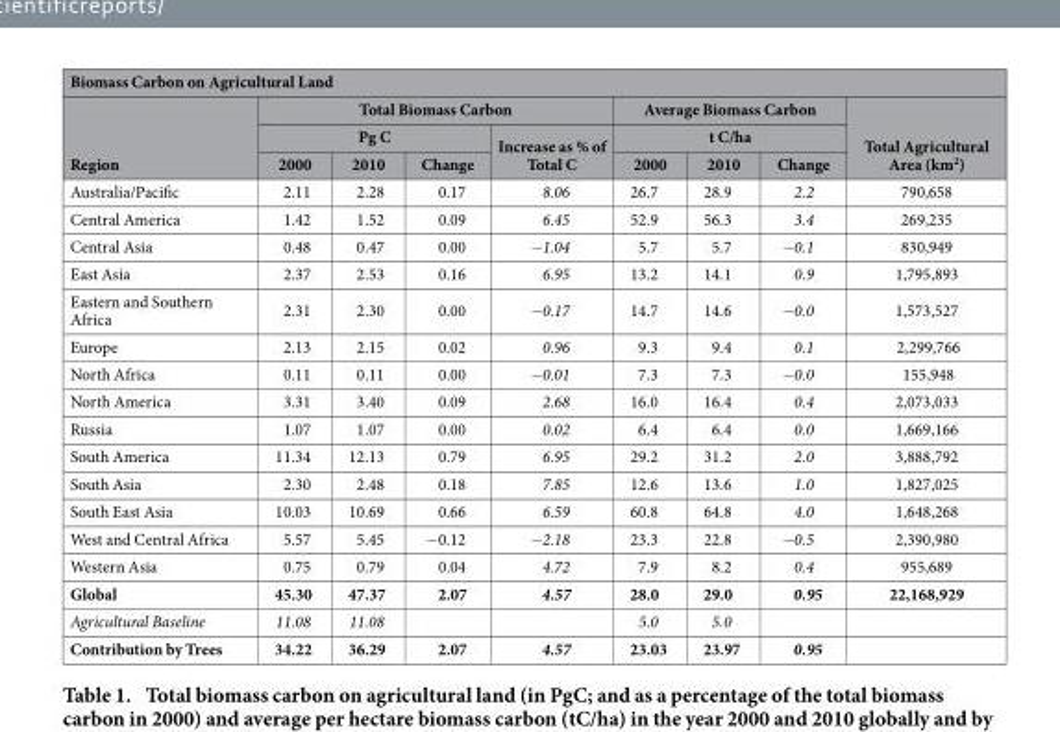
<table><thead><tr><td colspan="9">Biomass Carbon on Agricultural Land</td></tr><tr><td rowspan="3">Region</td><td colspan="4">Total Biomass Carbon</td><td rowspan="2" colspan="3">Average Biomass Carbon t C/ha</td><td rowspan="3">Total Agricultural Area (km<sup>2</sup>)</td></tr><tr><td colspan="3">Pg C</td><td rowspan="2">Increase as % of Total C</td></tr><tr><td>2000</td><td>2010</td><td>Change</td><td>2000</td><td>2010</td><td>Change</td></tr></thead><tbody><tr><td>Australia/Pacific</td><td>2.11</td><td>2.28</td><td>0.17</td><td>8.06</td><td>26.7</td><td>28.9</td><td>2.2</td><td>790,658</td></tr><tr><td>Central America</td><td>1.42</td><td>1.52</td><td>0.09</td><td>6.45</td><td>52.9</td><td>56.3</td><td>3.4</td><td>269,235</td></tr><tr><td>Central Asia</td><td>0.48</td><td>0.47</td><td>0.00</td><td>−1.04</td><td>5.7</td><td>5.7</td><td>−0.1</td><td>830,949</td></tr><tr><td>East Asia</td><td>2.37</td><td>2.53</td><td>0.16</td><td>6.95</td><td>13.2</td><td>14.1</td><td>0.9</td><td>1,795,893</td></tr><tr><td>Eastern and Southern Africa</td><td>2.31</td><td>2.30</td><td>0.00</td><td>−0.17</td><td>14.7</td><td>14.6</td><td>−0.0</td><td>1,573,527</td></tr><tr><td>Europe</td><td>2.13</td><td>2.15</td><td>0.02</td><td>0.96</td><td>9.3</td><td>9.4</td><td>0.1</td><td>2,299,766</td></tr><tr><td>North Africa</td><td>0.11</td><td>0.11</td><td>0.00</td><td>−0.01</td><td>7.3</td><td>7.3</td><td>−0.0</td><td>155,948</td></tr><tr><td>North America</td><td>3.31</td><td>3.40</td><td>0.09</td><td>2.68</td><td>16.0</td><td>16.4</td><td>0.4</td><td>2,073,033</td></tr><tr><td>Russia</td><td>1.07</td><td>1.07</td><td>0.00</td><td>0.02</td><td>6.4</td><td>6.4</td><td>0.0</td><td>1,669,166</td></tr><tr><td>South America</td><td>11.34</td><td>12.13</td><td>0.79</td><td>6.95</td><td>29.2</td><td>31.2</td><td>2.0</td><td>3,888,792</td></tr><tr><td>South Asia</td><td>2.30</td><td>2.48</td><td>0.18</td><td>7.85</td><td>12.6</td><td>13.6</td><td>1.0</td><td>1,827,025</td></tr><tr><td>South East Asia</td><td>10.03</td><td>10.69</td><td>0.66</td><td>6.59</td><td>60.8</td><td>64.8</td><td>4.0</td><td>1,648,268</td></tr><tr><td>West and Central Africa</td><td>5.57</td><td>5.45</td><td>− 0.12</td><td>−2.18</td><td>23.3</td><td>22.8</td><td>−0.5</td><td>2,390,980</td></tr><tr><td>Western Asia</td><td>0.75</td><td>0.79</td><td>0.04</td><td>4.72</td><td>7.9</td><td>8.2</td><td>0.4</td><td>955,689</td></tr><tr><td>Global</td><td>45.30</td><td>47.37</td><td>2.07</td><td>4.57</td><td>28.0</td><td>29.0</td><td>0.95</td><td>22,168,929</td></tr><tr><td>Agricultural Baseline</td><td>11.08</td><td>11.08</td><td></td><td></td><td>5.0</td><td>5.0</td><td></td><td></td></tr><tr><td>Contribution by Trees</td><td>34.22</td><td>36.29</td><td>2.07</td><td>4.57</td><td>23.03</td><td>23.97</td><td>0.95</td><td></td></tr></tbody></table>